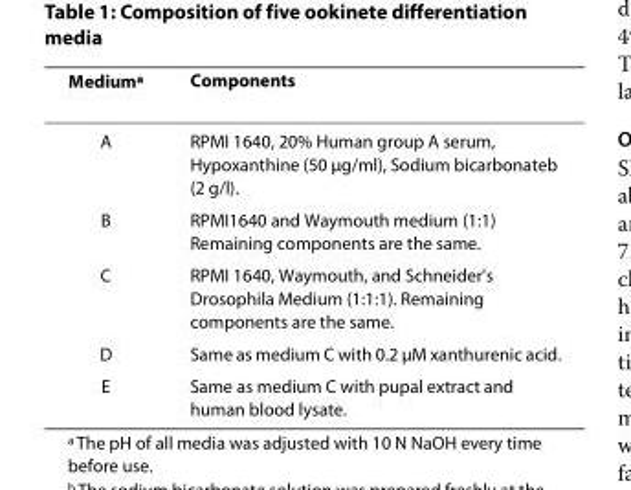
<table><thead><tr><td>Medium<sup>a</sup></td><td>Components</td></tr></thead><tbody><tr><td>A</td><td>RPMI 1640, 20% Human group A serum, Hypoxanthine (50 μg/ml), Sodium bicarbonateb (2 g/l).</td></tr><tr><td>B</td><td>RPMI1640 and Waymouth medium (1:1) Remaining components are the same.</td></tr><tr><td>C</td><td>RPMI 1640, Waymouth, and Schneider&#x27;s Drosophila Medium (1:1:1). Remaining components are the same.</td></tr><tr><td>D</td><td>Same as medium C with 0.2 μM xanthurenic acid.</td></tr><tr><td>E</td><td>Same as medium C with pupal extract and human blood lysate.</td></tr></tbody></table>